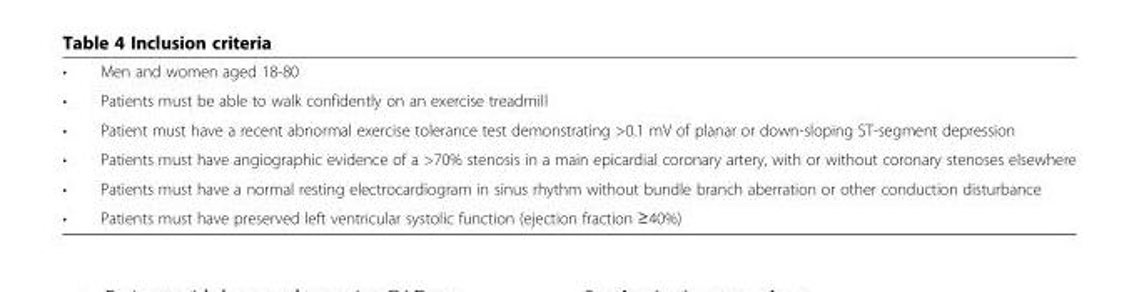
<table><tbody><tr><td>•</td><td>Men and women aged 18-80</td></tr><tr><td>•</td><td>Patients must be able to walk confidently on an exercise treadmill</td></tr><tr><td>•</td><td>Patient must have a recent abnormal exercise tolerance test demonstrating &gt;0.1 mV of planar or down-sloping ST-segment depression</td></tr><tr><td>•</td><td>Patients must have angiographic evidence of a &gt;70% stenosis in a main epicardial coronary artery, with or without coronary stenoses elsewhere</td></tr><tr><td>•</td><td>Patients must have a normal resting electrocardiogram in sinus rhythm without bundle branch aberration or other conduction disturbance</td></tr><tr><td>•</td><td>Patients must have preserved left ventricular systolic function (ejection fraction ≥40%)</td></tr></tbody></table>